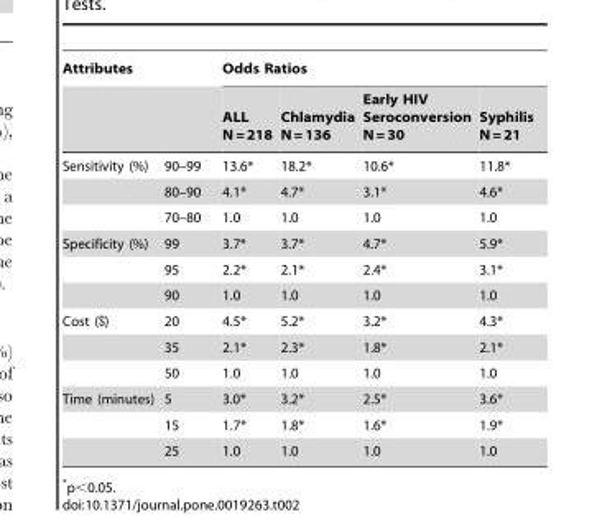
<table><thead><tr><td rowspan="2">Attributes</td><td rowspan="2"></td><td colspan="4">Odds Ratios</td></tr><tr><td>ALL N = 218</td><td>Chlamydia N = 136</td><td>Early HIV Seroconversion N = 30</td><td>Syphilis N = 21</td></tr></thead><tbody><tr><td rowspan="3">Sensitivity (%)</td><td>90–99</td><td>13.6*</td><td>18.2*</td><td>10.6*</td><td>11.8*</td></tr><tr><td>80–90</td><td>4.1*</td><td>4.7*</td><td>3.1*</td><td>4.6*</td></tr><tr><td>70–80</td><td>1.0</td><td>1.0</td><td>1.0</td><td>1.0</td></tr><tr><td rowspan="3">Specificity (%)</td><td>99</td><td>3.7*</td><td>3.7*</td><td>4.7*</td><td>5.9*</td></tr><tr><td>95</td><td>2.2*</td><td>2.1*</td><td>2.4*</td><td>3.1*</td></tr><tr><td>90</td><td>1.0</td><td>1.0</td><td>1.0</td><td>1.0</td></tr><tr><td rowspan="3">Cost ($)</td><td>20</td><td>4.5*</td><td>5.2*</td><td>3.2*</td><td>4.3*</td></tr><tr><td>35</td><td>2.1*</td><td>2.3*</td><td>1.8*</td><td>2.1*</td></tr><tr><td>50</td><td>1.0</td><td>1.0</td><td>1.0</td><td>1.0</td></tr><tr><td rowspan="3">Time (minutes)</td><td>5</td><td>3.0*</td><td>3.2*</td><td>2.5*</td><td>3.6*</td></tr><tr><td>15</td><td>1.7*</td><td>1.8*</td><td>1.6*</td><td>1.9*</td></tr><tr><td>25</td><td>1.0</td><td>1.0</td><td>1.0</td><td>1.0</td></tr></tbody></table>